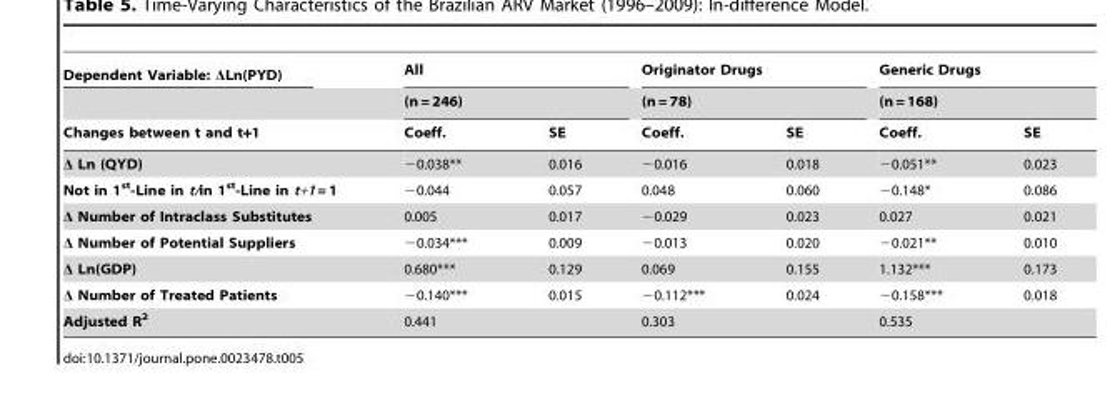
<table><thead><tr><td rowspan="3">Dependent Variable: ΔLn(PYD) Changes between t and t+1</td><td rowspan="2" colspan="2">All (n = 246)</td><td rowspan="2" colspan="2">Originator Drugs (n = 78)</td><td rowspan="2" colspan="2">Generic Drugs (n = 168)</td></tr><tr></tr><tr><td>Coeff.</td><td>SE</td><td>Coeff.</td><td>SE</td><td>Coeff.</td><td>SE</td></tr></thead><tbody><tr><td>Δ Ln (QYD)</td><td>−0.038**</td><td>0.016</td><td>−0.016</td><td>0.018</td><td>−0.051**</td><td>0.023</td></tr><tr><td>Not in 1<sup>st</sup>-Line in t/in 1<sup>st</sup>-Line in t+1 = 1</td><td>−0.044</td><td>0.057</td><td>0.048</td><td>0.060</td><td>−0.148*</td><td>0.086</td></tr><tr><td>Δ Number of Intraclass Substitutes</td><td>0.005</td><td>0.017</td><td>−0.029</td><td>0.023</td><td>0.027</td><td>0.021</td></tr><tr><td>Δ Number of Potential Suppliers</td><td>−0.034***</td><td>0.009</td><td>−0.013</td><td>0.020</td><td>−0.021**</td><td>0.010</td></tr><tr><td>Δ Ln(GDP)</td><td>0.680***</td><td>0.129</td><td>0.069</td><td>0.155</td><td>1.132***</td><td>0.173</td></tr><tr><td>Δ Number of Treated Patients</td><td>−0.140***</td><td>0.015</td><td>−0.112***</td><td>0.024</td><td>−0.158***</td><td>0.018</td></tr><tr><td>Adjusted R<sup>2</sup></td><td colspan="2">0.441</td><td colspan="2">0.303</td><td colspan="2">0.535</td></tr></tbody></table>